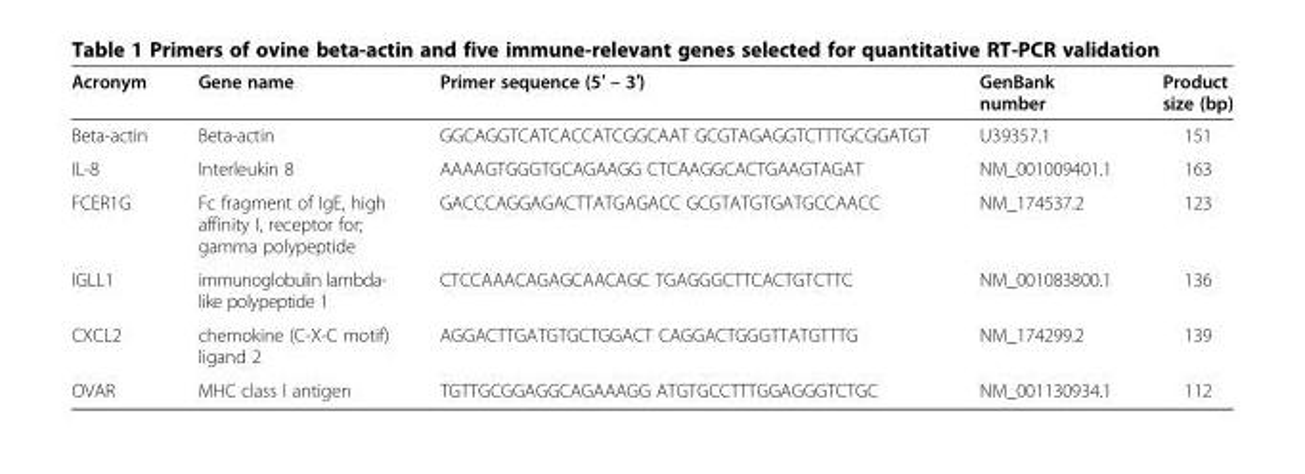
<table><thead><tr><td>Acronym</td><td>Gene name</td><td>Primer sequence (5′ – 3′)</td><td>GenBank number</td><td>Product size (bp)</td></tr></thead><tbody><tr><td>Beta-actin</td><td>Beta-actin</td><td>GGCAGGTCATCACCATCGGCAAT GCGTAGAGGTCTTTGCGGATGT</td><td>U39357.1</td><td>151</td></tr><tr><td>IL-8</td><td>Interleukin 8</td><td>AAAAGTGGGTGCAGAAGG CTCAAGGCACTGAAGTAGAT</td><td>NM_001009401.1</td><td>163</td></tr><tr><td>FCER1G</td><td>Fc fragment of IgE, high affinity I, receptor for; gamma polypeptide</td><td>GACCCAGGAGACTTATGAGACC GCGTATGTGATGCCAACC</td><td>NM_174537.2</td><td>123</td></tr><tr><td>IGLL1</td><td>immunoglobulin lambda- like polypeptide 1</td><td>CTCCAAACAGAGCAACAGC TGAGGGCTTCACTGTCTTC</td><td>NM_001083800.1</td><td>136</td></tr><tr><td>CXCL2</td><td>chemokine (C-X-C motif) ligand 2</td><td>AGGACTTGATGTGCTGGACT CAGGACTGGGTTATGTTTG</td><td>NM_174299.2</td><td>139</td></tr><tr><td>OVAR</td><td>MHC class I antigen</td><td>TGTTGCGGAGGCAGAAAGG ATGTGCCTTTGGAGGGTCTGC</td><td>NM_001130934.1</td><td>112</td></tr></tbody></table>